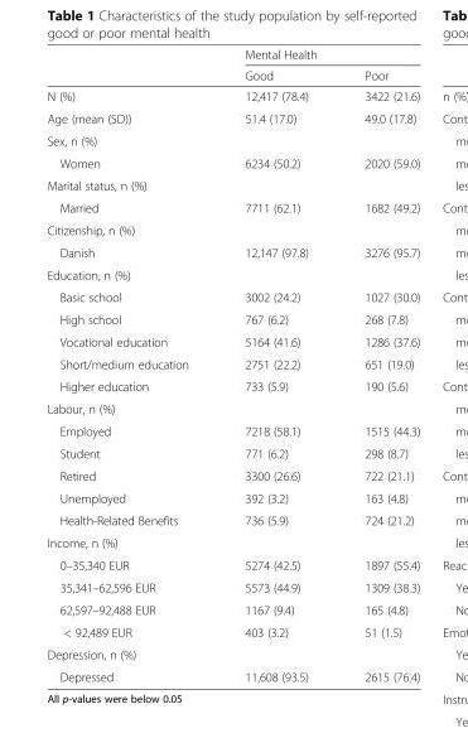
<table><thead><tr><td rowspan="2"></td><td colspan="2">Mental Health</td></tr><tr><td>Good</td><td>Poor</td></tr></thead><tbody><tr><td>N (%)</td><td>12,417 (78.4)</td><td>3422 (21.6)</td></tr><tr><td>Age (mean (SD))</td><td>51.4 (17.0)</td><td>49.0 (17.8)</td></tr><tr><td colspan="3">Sex, n (%)</td></tr><tr><td>Women</td><td>6234 (50.2)</td><td>2020 (59.0)</td></tr><tr><td colspan="3">Marital status, n (%)</td></tr><tr><td>Married</td><td>7711 (62.1)</td><td>1682 (49.2)</td></tr><tr><td colspan="3">Citizenship, n (%)</td></tr><tr><td>Danish</td><td>12,147 (97.8)</td><td>3276 (95.7)</td></tr><tr><td colspan="3">Education, n (%)</td></tr><tr><td>Basic school</td><td>3002 (24.2)</td><td>1027 (30.0)</td></tr><tr><td>High school</td><td>767 (6.2)</td><td>268 (7.8)</td></tr><tr><td>Vocational education</td><td>5164 (41.6)</td><td>1286 (37.6)</td></tr><tr><td>Short/medium education</td><td>2751 (22.2)</td><td>651 (19.0)</td></tr><tr><td>Higher education</td><td>733 (5.9)</td><td>190 (5.6)</td></tr><tr><td colspan="3">Labour, n (%)</td></tr><tr><td>Employed</td><td>7218 (58.1)</td><td>1515 (44.3)</td></tr><tr><td>Student</td><td>771 (6.2)</td><td>298 (8.7)</td></tr><tr><td>Retired</td><td>3300 (26.6)</td><td>722 (21.1)</td></tr><tr><td>Unemployed</td><td>392 (3.2)</td><td>163 (4.8)</td></tr><tr><td>Health-Related Benefits</td><td>736 (5.9)</td><td>724 (21.2)</td></tr><tr><td colspan="3">Income, n (%)</td></tr><tr><td>0–35,340 EUR</td><td>5274 (42.5)</td><td>1897 (55.4)</td></tr><tr><td>35,341–62,596 EUR</td><td>5573 (44.9)</td><td>1309 (38.3)</td></tr><tr><td>62,597–92,488 EUR</td><td>1167 (9.4)</td><td>165 (4.8)</td></tr><tr><td>&lt; 92,489 EUR</td><td>403 (3.2)</td><td>51 (1.5)</td></tr><tr><td colspan="3">Depression, n (%)</td></tr><tr><td>Depressed</td><td>11,608 (93.5)</td><td>2615 (76.4)</td></tr></tbody></table>